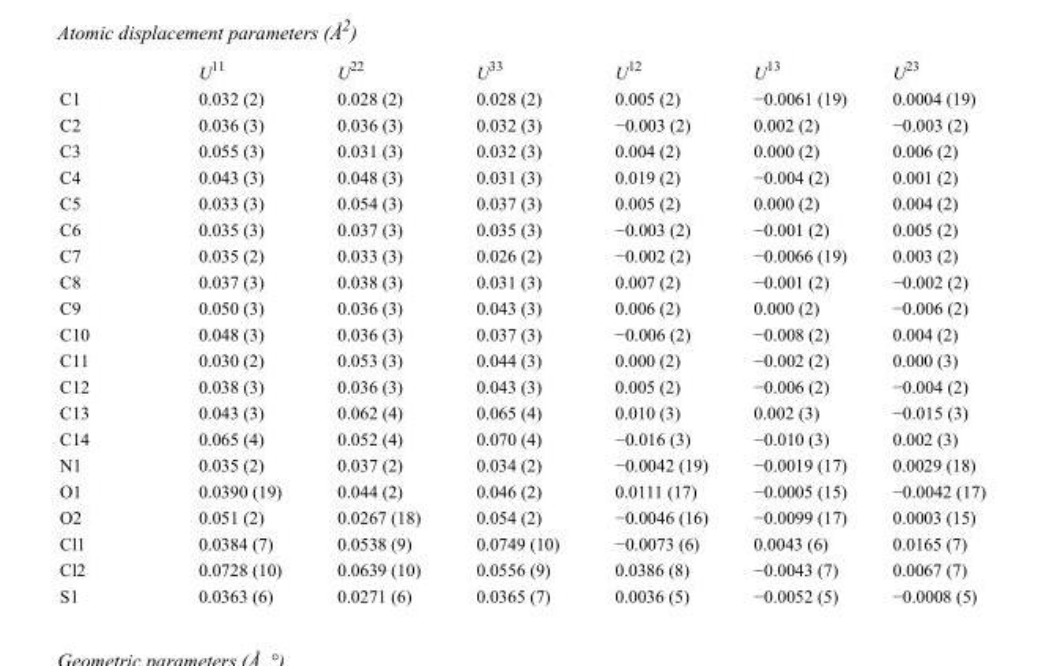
<table><thead><tr><td></td><td>U<sup>11</sup></td><td>U<sup>22</sup></td><td>U<sup>33</sup></td><td>U<sup>12</sup></td><td>U<sup>13</sup></td><td>U<sup>23</sup></td></tr></thead><tbody><tr><td>C1</td><td>0.032 (2)</td><td>0.028 (2)</td><td>0.028 (2)</td><td>0.005 (2)</td><td>−0.0061 (19)</td><td>0.0004 (19)</td></tr><tr><td>C2</td><td>0.036 (3)</td><td>0.036 (3)</td><td>0.032 (3)</td><td>−0.003 (2)</td><td>0.002 (2)</td><td>−0.003 (2)</td></tr><tr><td>C3</td><td>0.055 (3)</td><td>0.031 (3)</td><td>0.032 (3)</td><td>0.004 (2)</td><td>0.000 (2)</td><td>0.006 (2)</td></tr><tr><td>C4</td><td>0.043 (3)</td><td>0.048 (3)</td><td>0.031 (3)</td><td>0.019 (2)</td><td>−0.004 (2)</td><td>0.001 (2)</td></tr><tr><td>C5</td><td>0.033 (3)</td><td>0.054 (3)</td><td>0.037 (3)</td><td>0.005 (2)</td><td>0.000 (2)</td><td>0.004 (2)</td></tr><tr><td>C6</td><td>0.035 (3)</td><td>0.037 (3)</td><td>0.035 (3)</td><td>−0.003 (2)</td><td>−0.001 (2)</td><td>0.005 (2)</td></tr><tr><td>C7</td><td>0.035 (2)</td><td>0.033 (3)</td><td>0.026 (2)</td><td>−0.002 (2)</td><td>−0.0066 (19)</td><td>0.003 (2)</td></tr><tr><td>C8</td><td>0.037 (3)</td><td>0.038 (3)</td><td>0.031 (3)</td><td>0.007 (2)</td><td>−0.001 (2)</td><td>−0.002 (2)</td></tr><tr><td>C9</td><td>0.050 (3)</td><td>0.036 (3)</td><td>0.043 (3)</td><td>0.006 (2)</td><td>0.000 (2)</td><td>−0.006 (2)</td></tr><tr><td>C10</td><td>0.048 (3)</td><td>0.036 (3)</td><td>0.037 (3)</td><td>−0.006 (2)</td><td>−0.008 (2)</td><td>0.004 (2)</td></tr><tr><td>C11</td><td>0.030 (2)</td><td>0.053 (3)</td><td>0.044 (3)</td><td>0.000 (2)</td><td>−0.002 (2)</td><td>0.000 (3)</td></tr><tr><td>C12</td><td>0.038 (3)</td><td>0.036 (3)</td><td>0.043 (3)</td><td>0.005 (2)</td><td>−0.006 (2)</td><td>−0.004 (2)</td></tr><tr><td>C13</td><td>0.043 (3)</td><td>0.062 (4)</td><td>0.065 (4)</td><td>0.010 (3)</td><td>0.002 (3)</td><td>−0.015 (3)</td></tr><tr><td>C14</td><td>0.065 (4)</td><td>0.052 (4)</td><td>0.070 (4)</td><td>−0.016 (3)</td><td>−0.010 (3)</td><td>0.002 (3)</td></tr><tr><td>N1</td><td>0.035 (2)</td><td>0.037 (2)</td><td>0.034 (2)</td><td>−0.0042 (19)</td><td>−0.0019 (17)</td><td>0.0029 (18)</td></tr><tr><td>O1</td><td>0.0390 (19)</td><td>0.044 (2)</td><td>0.046 (2)</td><td>0.0111 (17)</td><td>−0.0005 (15)</td><td>−0.0042 (17)</td></tr><tr><td>O2</td><td>0.051 (2)</td><td>0.0267 (18)</td><td>0.054 (2)</td><td>−0.0046 (16)</td><td>−0.0099 (17)</td><td>0.0003 (15)</td></tr><tr><td>Cl1</td><td>0.0384 (7)</td><td>0.0538 (9)</td><td>0.0749 (10)</td><td>−0.0073 (6)</td><td>0.0043 (6)</td><td>0.0165 (7)</td></tr><tr><td>Cl2</td><td>0.0728 (10)</td><td>0.0639 (10)</td><td>0.0556 (9)</td><td>0.0386 (8)</td><td>−0.0043 (7)</td><td>0.0067 (7)</td></tr><tr><td>S1</td><td>0.0363 (6)</td><td>0.0271 (6)</td><td>0.0365 (7)</td><td>0.0036 (5)</td><td>−0.0052 (5)</td><td>−0.0008 (5)</td></tr></tbody></table>